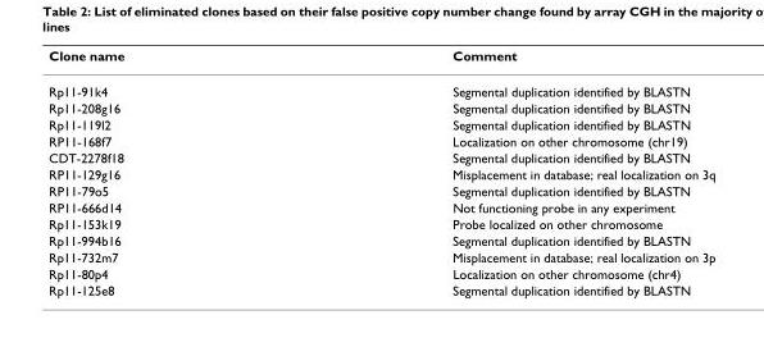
<table><thead><tr><td>Clone name</td><td>Comment</td></tr></thead><tbody><tr><td>Rp11-91k4</td><td>Segmental duplication identified by BLASTN</td></tr><tr><td>Rp11-208g16</td><td>Segmental duplication identified by BLASTN</td></tr><tr><td>Rp11-119l2</td><td>Segmental duplication identified by BLASTN</td></tr><tr><td>RP11-168f7</td><td>Localization on other chromosome (chr19)</td></tr><tr><td>CDT-2278f18</td><td>Segmental duplication identified by BLASTN</td></tr><tr><td>RP11-129g16</td><td>Misplacement in database; real localization on 3q</td></tr><tr><td>RP11-79o5</td><td>Segmental duplication identified by BLASTN</td></tr><tr><td>RP11-666d14</td><td>Not functioning probe in any experiment</td></tr><tr><td>Rp11-153k19</td><td>Probe localized on other chromosome</td></tr><tr><td>Rp11-994b16</td><td>Segmental duplication identified by BLASTN</td></tr><tr><td>Rp11-732m7</td><td>Misplacement in database; real localization on 3p</td></tr><tr><td>Rp11-80p4</td><td>Localization on other chromosome (chr4)</td></tr><tr><td>Rp11-125e8</td><td>Segmental duplication identified by BLASTN</td></tr></tbody></table>